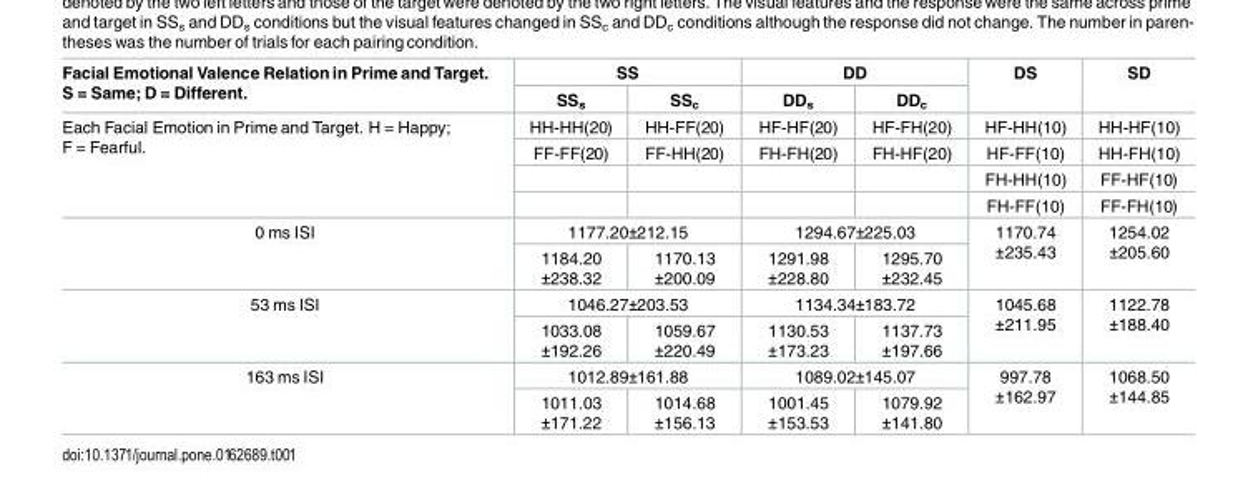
<table><thead><tr><td rowspan="2">Facial Emotional Valence Relation in Prime and Target. S = Same; D = Different.</td><td colspan="2">SS</td><td colspan="2">DD</td><td rowspan="2">DS</td><td rowspan="2">SD</td></tr><tr><td>SS<sub>s</sub></td><td>SS<sub>c</sub></td><td>DD<sub>s</sub></td><td>DD<sub>c</sub></td></tr></thead><tbody><tr><td rowspan="4">Each Facial Emotion in Prime and Target. H = Happy; F = Fearful.</td><td>HH-HH(20)</td><td>HH-FF(20)</td><td>HF-HF(20)</td><td>HF-FH(20)</td><td>HF-HH(10)</td><td>HH-HF(10)</td></tr><tr><td>FF-FF(20)</td><td>FF-HH(20)</td><td>FH-FH(20)</td><td>FH-HF(20)</td><td>HF-FF(10)</td><td>HH-FH(10)</td></tr><tr><td></td><td></td><td></td><td></td><td>FH-HH(10)</td><td>FF-HF(10)</td></tr><tr><td></td><td></td><td></td><td></td><td>FH-FF(10)</td><td>FF-FH(10)</td></tr><tr><td rowspan="2">0 ms ISI</td><td colspan="2">1177.20±212.15</td><td colspan="2">1294.67±225.03</td><td rowspan="2">1170.74 ±235.43</td><td rowspan="2">1254.02 ±205.60</td></tr><tr><td>1184.20 ±238.32</td><td>1170.13 ±200.09</td><td>1291.98 ±228.80</td><td>1295.70 ±232.45</td></tr><tr><td rowspan="2">53 ms ISI</td><td colspan="2">1046.27±203.53</td><td colspan="2">1134.34±183.72</td><td rowspan="2">1045.68 ±211.95</td><td rowspan="2">1122.78 ±188.40</td></tr><tr><td>1033.08 ±192.26</td><td>1059.67 ±220.49</td><td>1130.53 ±173.23</td><td>1137.73 ±197.66</td></tr><tr><td rowspan="2">163 ms ISI</td><td colspan="2">1012.89±161.88</td><td colspan="2">1089.02±145.07</td><td rowspan="2">997.78 ±162.97</td><td rowspan="2">1068.50 ±144.85</td></tr><tr><td>1011.03 ±171.22</td><td>1014.68 ±156.13</td><td>1001.45 ±153.53</td><td>1079.92 ±141.80</td></tr></tbody></table>